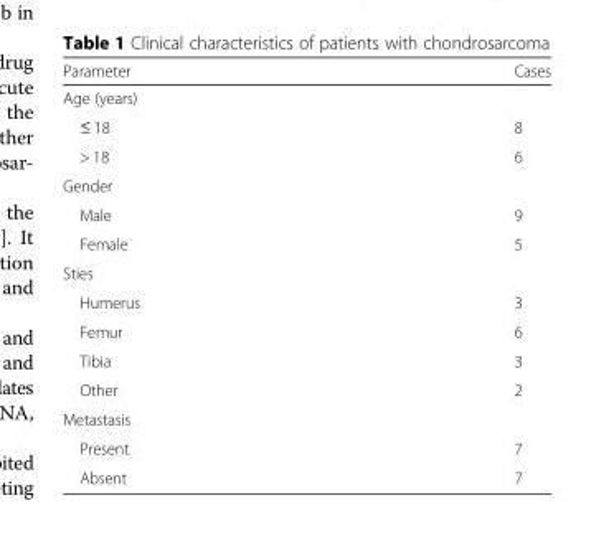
<table><thead><tr><td>Parameter</td><td>Cases</td></tr></thead><tbody><tr><td colspan="2">Age (years)</td></tr><tr><td>≤ 18</td><td>8</td></tr><tr><td>&gt; 18</td><td>6</td></tr><tr><td colspan="2">Gender</td></tr><tr><td>Male</td><td>9</td></tr><tr><td>Female</td><td>5</td></tr><tr><td colspan="2">Sties</td></tr><tr><td>Humerus</td><td>3</td></tr><tr><td>Femur</td><td>6</td></tr><tr><td>Tibia</td><td>3</td></tr><tr><td>Other</td><td>2</td></tr><tr><td colspan="2">Metastasis</td></tr><tr><td>Present</td><td>7</td></tr><tr><td>Absent</td><td>7</td></tr></tbody></table>